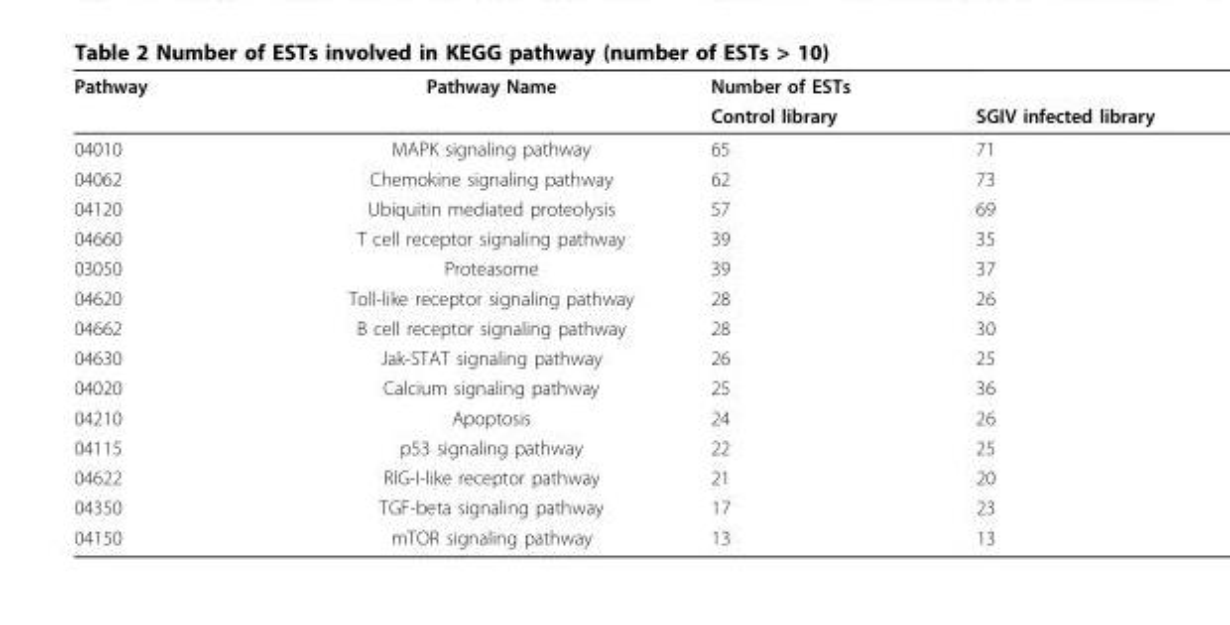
<table><thead><tr><td rowspan="2">Pathway</td><td rowspan="2">Pathway Name</td><td colspan="2">Number of ESTs</td></tr><tr><td>Control library</td><td>SGIV infected library</td></tr></thead><tbody><tr><td>04010</td><td>MAPK signaling pathway</td><td>65</td><td>71</td></tr><tr><td>04062</td><td>Chemokine signaling pathway</td><td>62</td><td>73</td></tr><tr><td>04120</td><td>Ubiquitin mediated proteolysis</td><td>57</td><td>69</td></tr><tr><td>04660</td><td>T cell receptor signaling pathway</td><td>39</td><td>35</td></tr><tr><td>03050</td><td>Proteasome</td><td>39</td><td>37</td></tr><tr><td>04620</td><td>Toll-like receptor signaling pathway</td><td>28</td><td>26</td></tr><tr><td>04662</td><td>B cell receptor signaling pathway</td><td>28</td><td>30</td></tr><tr><td>04630</td><td>Jak-STAT signaling pathway</td><td>26</td><td>25</td></tr><tr><td>04020</td><td>Calcium signaling pathway</td><td>25</td><td>36</td></tr><tr><td>04210</td><td>Apoptosis</td><td>24</td><td>26</td></tr><tr><td>04115</td><td>p53 signaling pathway</td><td>22</td><td>25</td></tr><tr><td>04622</td><td>RIG-I-like receptor pathway</td><td>21</td><td>20</td></tr><tr><td>04350</td><td>TGF-beta signaling pathway</td><td>17</td><td>23</td></tr><tr><td>04150</td><td>mTOR signaling pathway</td><td>13</td><td>13</td></tr></tbody></table>